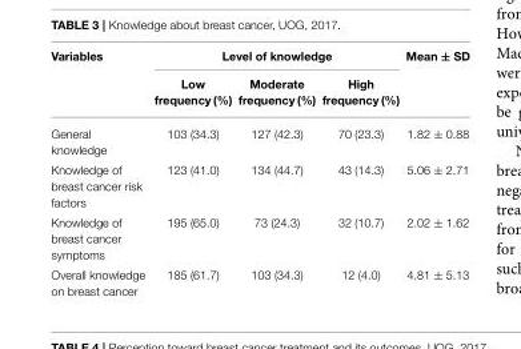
<table><thead><tr><td rowspan="2">Variables</td><td colspan="3">Level of knowledge</td><td rowspan="2">Mean ± SD</td></tr><tr><td>Low frequency (%)</td><td>Moderate frequency (%)</td><td>High frequency (%)</td></tr></thead><tbody><tr><td>General knowledge</td><td>103 (34.3)</td><td>127 (42.3)</td><td>70 (23.3)</td><td>1.82 ± 0.88</td></tr><tr><td>Knowledge of breast cancer risk factors</td><td>123 (41.0)</td><td>134 (44.7)</td><td>43 (14.3)</td><td>5.06 ± 2.71</td></tr><tr><td>Knowledge of breast cancer symptoms</td><td>195 (65.0)</td><td>73 (24.3)</td><td>32 (10.7)</td><td>2.02 ± 1.62</td></tr><tr><td>Overall knowledge on breast cancer</td><td>185 (61.7)</td><td>103 (34.3)</td><td>12 (4.0)</td><td>4.81 ± 5.13</td></tr></tbody></table>